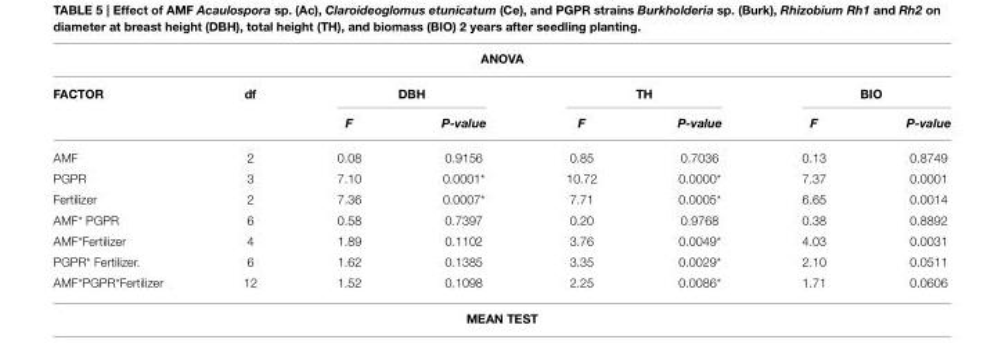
<table><thead><tr><td colspan="8">ANOVA</td></tr><tr><td rowspan="2">FACTOR</td><td rowspan="2">df</td><td colspan="2">DBH</td><td colspan="2">TH</td><td colspan="2">BIO</td></tr><tr><td>F</td><td>P-value</td><td>F</td><td>P-value</td><td>F</td><td>P-value</td></tr></thead><tbody><tr><td>AMF</td><td>2</td><td>0.08</td><td>0.9156</td><td>0.85</td><td>0.7036</td><td>0.13</td><td>0.8749</td></tr><tr><td>PGPR</td><td>3</td><td>7.10</td><td>0.0001*</td><td>10.72</td><td>0.0000*</td><td>7.37</td><td>0.0001</td></tr><tr><td>Fertilizer</td><td>2</td><td>7.36</td><td>0.0007*</td><td>7.71</td><td>0.0005*</td><td>6.65</td><td>0.0014</td></tr><tr><td>AMF* PGPR</td><td>6</td><td>0.58</td><td>0.7397</td><td>0.20</td><td>0.9768</td><td>0.38</td><td>0.8892</td></tr><tr><td>AMF*Fertilizer</td><td>4</td><td>1.89</td><td>0.1102</td><td>3.76</td><td>0.0049*</td><td>4.03</td><td>0.0031</td></tr><tr><td>PGPR* Fertilizer.</td><td>6</td><td>1.62</td><td>0.1385</td><td>3.35</td><td>0.0029*</td><td>2.10</td><td>0.0511</td></tr><tr><td>AMF*PGPR*Fertilizer</td><td>12</td><td>1.52</td><td>0.1098</td><td>2.25</td><td>0.0086*</td><td>1.71</td><td>0.0606</td></tr></tbody></table>